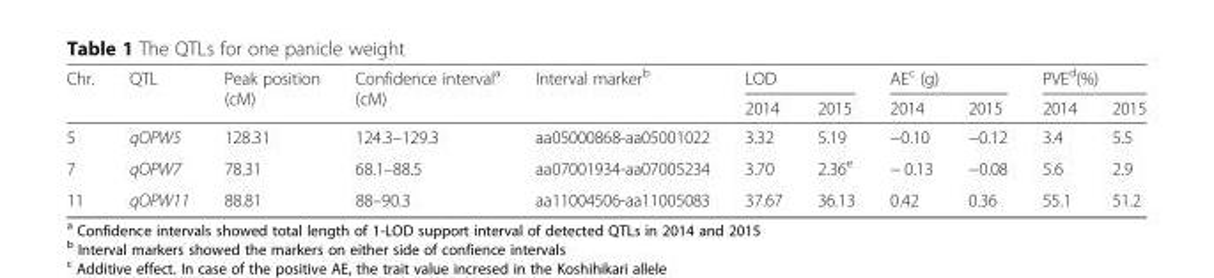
<table><thead><tr><td rowspan="2">Chr.</td><td rowspan="2">QTL</td><td rowspan="2">Peak position (cM)</td><td rowspan="2">Confidence interval<sup>a</sup> (cM)</td><td rowspan="2">Interval marker<sup>b</sup></td><td colspan="2">LOD</td><td colspan="2">AE<sup>c</sup> (g)</td><td colspan="2">PVE<sup>d</sup>(%)</td></tr><tr><td>2014</td><td>2015</td><td>2014</td><td>2015</td><td>2014</td><td>2015</td></tr></thead><tbody><tr><td>5</td><td>qOPW5</td><td>128.31</td><td>124.3–129.3</td><td>aa05000868-aa05001022</td><td>3.32</td><td>5.19</td><td>−0.10</td><td>−0.12</td><td>3.4</td><td>5.5</td></tr><tr><td>7</td><td>qOPW7</td><td>78.31</td><td>68.1–88.5</td><td>aa07001934-aa07005234</td><td>3.70</td><td>2.36<sup>e</sup></td><td>− 0.13</td><td>−0.08</td><td>5.6</td><td>2.9</td></tr><tr><td>11</td><td>qOPW11</td><td>88.81</td><td>88–90.3</td><td>aa11004506-aa11005083</td><td>37.67</td><td>36.13</td><td>0.42</td><td>0.36</td><td>55.1</td><td>51.2</td></tr></tbody></table>